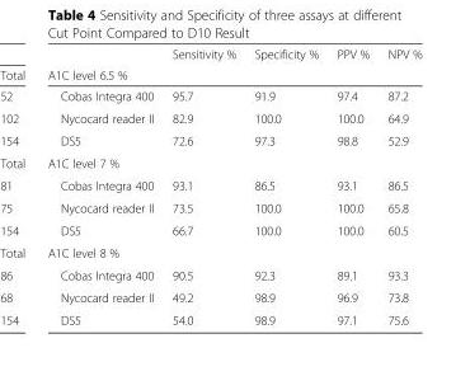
<table><thead><tr><td rowspan="2">A1C level 6.5 %</td><td rowspan="2">Sensitivity %</td><td rowspan="2">Specificity %</td><td rowspan="2">PPV %</td><td rowspan="2">NPV %</td></tr><tr></tr></thead><tbody><tr><td>Cobas Integra 400</td><td>95.7</td><td>91.9</td><td>97.4</td><td>87.2</td></tr><tr><td>Nycocard reader II</td><td>82.9</td><td>100.0</td><td>100.0</td><td>64.9</td></tr><tr><td>DS5</td><td>72.6</td><td>97.3</td><td>98.8</td><td>52.9</td></tr><tr><td colspan="5">A1C level 7 %</td></tr><tr><td>Cobas Integra 400</td><td>93.1</td><td>86.5</td><td>93.1</td><td>86.5</td></tr><tr><td>Nycocard reader II</td><td>73.5</td><td>100.0</td><td>100.0</td><td>65.8</td></tr><tr><td>DS5</td><td>66.7</td><td>100.0</td><td>100.0</td><td>60.5</td></tr><tr><td colspan="5">A1C level 8 %</td></tr><tr><td>Cobas Integra 400</td><td>90.5</td><td>92.3</td><td>89.1</td><td>93.3</td></tr><tr><td>Nycocard reader II</td><td>49.2</td><td>98.9</td><td>96.9</td><td>73.8</td></tr><tr><td>DS5</td><td>54.0</td><td>98.9</td><td>97.1</td><td>75.6</td></tr></tbody></table>